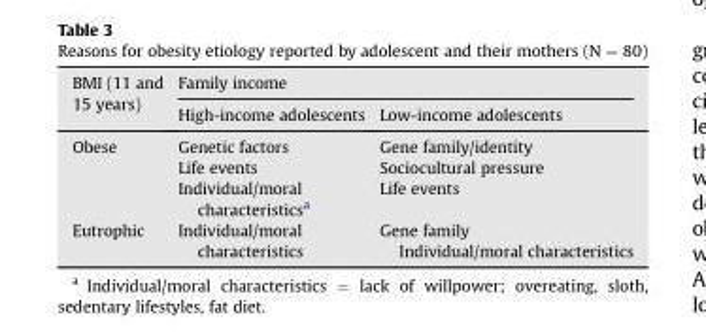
<table><thead><tr><td rowspan="2">BMI (11 and 15 years)</td><td colspan="2">Family income</td></tr><tr><td>High-income adolescents</td><td>Low-income adolescents</td></tr></thead><tbody><tr><td rowspan="3">Obese</td><td>Genetic factors</td><td>Gene family/identity</td></tr><tr><td>Life events</td><td>Sociocultural pressure</td></tr><tr><td>Individual/moral characteristics<sup>a</sup></td><td>Life events</td></tr><tr><td>Eutrophic</td><td>Individual/moral characteristics</td><td>Gene family Individual/moral characteristics</td></tr></tbody></table>